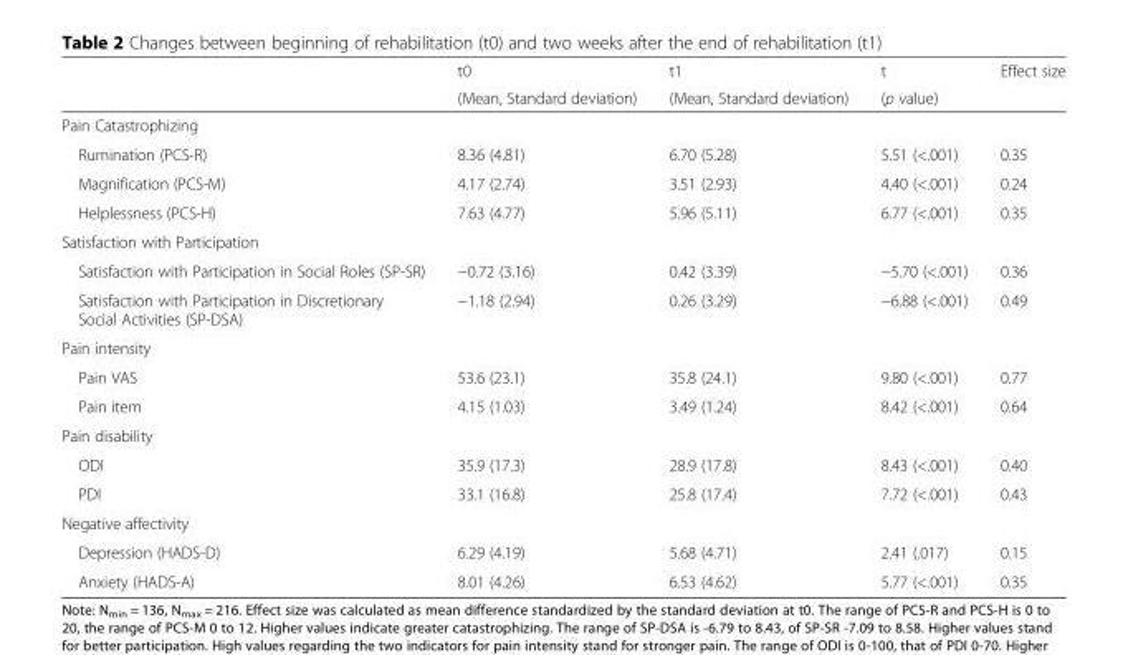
<table><thead><tr><td rowspan="2"></td><td rowspan="2">t0 (Mean, Standard deviation)</td><td rowspan="2">t1 (Mean, Standard deviation)</td><td rowspan="2">t (p value)</td><td rowspan="2">Effect size</td></tr><tr></tr></thead><tbody><tr><td colspan="5">Pain Catastrophizing</td></tr><tr><td>Rumination (PCS-R)</td><td>8.36 (4.81)</td><td>6.70 (5.28)</td><td>5.51 (&lt;.001)</td><td>0.35</td></tr><tr><td>Magnification (PCS-M)</td><td>4.17 (2.74)</td><td>3.51 (2.93)</td><td>4.40 (&lt;.001)</td><td>0.24</td></tr><tr><td>Helplessness (PCS-H)</td><td>7.63 (4.77)</td><td>5.96 (5.11)</td><td>6.77 (&lt;.001)</td><td>0.35</td></tr><tr><td colspan="5">Satisfaction with Participation</td></tr><tr><td>Satisfaction with Participation in Social Roles (SP-SR)</td><td>−0.72 (3.16)</td><td>0.42 (3.39)</td><td>−5.70 (&lt;.001)</td><td>0.36</td></tr><tr><td>Satisfaction with Participation in Discretionary Social Activities (SP-DSA)</td><td>−1.18 (2.94)</td><td>0.26 (3.29)</td><td>−6.88 (&lt;.001)</td><td>0.49</td></tr><tr><td colspan="5">Pain intensity</td></tr><tr><td>Pain VAS</td><td>53.6 (23.1)</td><td>35.8 (24.1)</td><td>9.80 (&lt;.001)</td><td>0.77</td></tr><tr><td>Pain item</td><td>4.15 (1.03)</td><td>3.49 (1.24)</td><td>8.42 (&lt;.001)</td><td>0.64</td></tr><tr><td colspan="5">Pain disability</td></tr><tr><td>ODI</td><td>35.9 (17.3)</td><td>28.9 (17.8)</td><td>8.43 (&lt;.001)</td><td>0.40</td></tr><tr><td>PDI</td><td>33.1 (16.8)</td><td>25.8 (17.4)</td><td>7.72 (&lt;.001)</td><td>0.43</td></tr><tr><td colspan="5">Negative affectivity</td></tr><tr><td>Depression (HADS-D)</td><td>6.29 (4.19)</td><td>5.68 (4.71)</td><td>2.41 (.017)</td><td>0.15</td></tr><tr><td>Anxiety (HADS-A)</td><td>8.01 (4.26)</td><td>6.53 (4.62)</td><td>5.77 (&lt;.001)</td><td>0.35</td></tr></tbody></table>